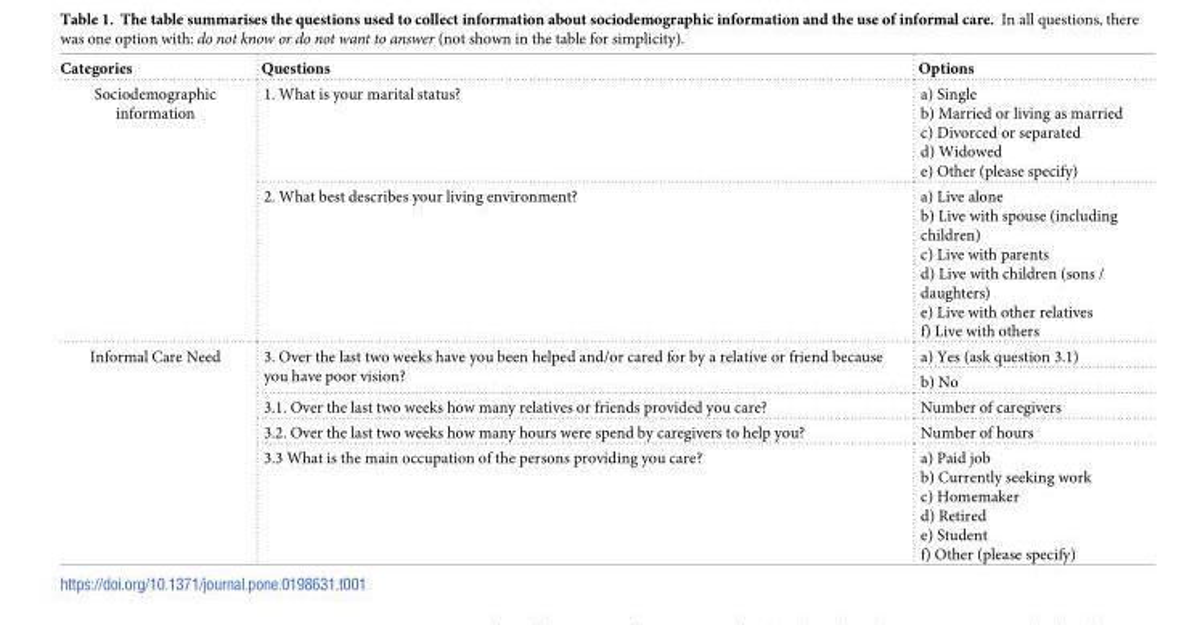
<table><thead><tr><td>Categories</td><td>Questions</td><td>Options</td></tr></thead><tbody><tr><td rowspan="2">Sociodemographic information</td><td>1. What is your marital status?</td><td>a) Single b) Married or living as married c) Divorced or separated d) Widowed e) Other (please specify)</td></tr><tr><td>2. What best describes your living environment?</td><td>a) Live alone b) Live with spouse (including children) c) Live with parents d) Live with children (sons / daughters) e) Live with other relatives f) Live with others</td></tr><tr><td rowspan="5">Informal Care Need</td><td rowspan="2">3. Over the last two weeks have you been helped and/or cared for by a relative or friend because you have poor vision?</td><td>a) Yes (ask question 3.1)</td></tr><tr><td>b) No</td></tr><tr><td>3.1. Over the last two weeks how many relatives or friends provided you care?</td><td>Number of caregivers</td></tr><tr><td>3.2. Over the last two weeks how many hours were spend by caregivers to help you?</td><td>Number of hours</td></tr><tr><td>3.3 What is the main occupation of the persons providing you care?</td><td>a) Paid job b) Currently seeking work c) Homemaker d) Retired e) Student f) Other (please specify)</td></tr></tbody></table>